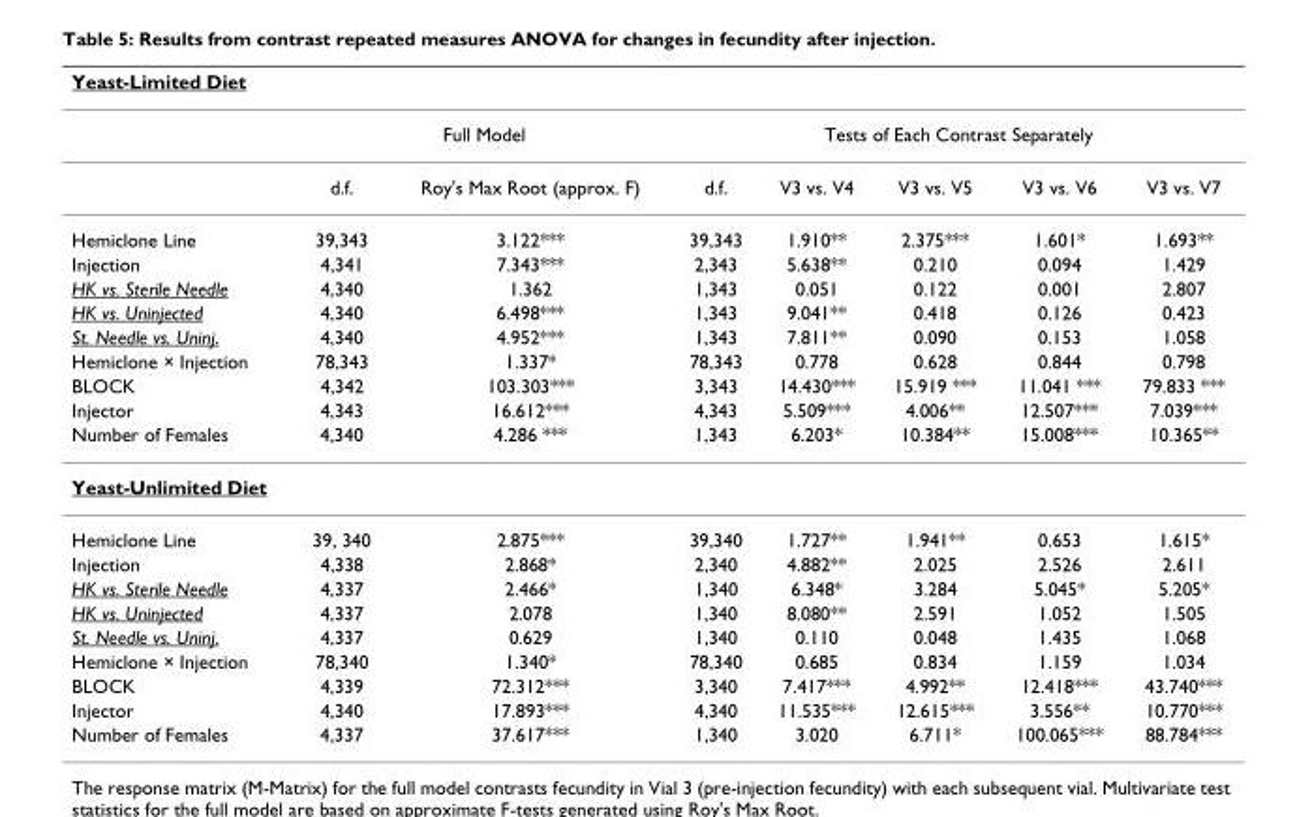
<table><thead><tr><td colspan="8">Yeast-Limited Diet</td></tr><tr><td rowspan="2"></td><td colspan="2">Full Model</td><td colspan="5">Tests of Each Contrast Separately</td></tr><tr><td>d.f.</td><td>Roy&#x27;s Max Root (approx. F)</td><td>d.f.</td><td>V3 vs. V4</td><td>V3 vs. V5</td><td>V3 vs. V6</td><td>V3 vs. V7</td></tr></thead><tbody><tr><td>Hemiclone Line</td><td>39,343</td><td>3.122***</td><td>39,343</td><td>1.910**</td><td>2.375***</td><td>1.601*</td><td>1.693**</td></tr><tr><td>Injection</td><td>4,341</td><td>7.343***</td><td>2,343</td><td>5.638**</td><td>0.210</td><td>0.094</td><td>1.429</td></tr><tr><td>HK vs. Sterile Needle</td><td>4,340</td><td>1.362</td><td>1,343</td><td>0.051</td><td>0.122</td><td>0.001</td><td>2.807</td></tr><tr><td>HK vs. Uninjected</td><td>4,340</td><td>6.498***</td><td>1,343</td><td>9.041**</td><td>0.418</td><td>0.126</td><td>0.423</td></tr><tr><td>St. Needle vs. Uninj.</td><td>4,340</td><td>4.952***</td><td>1,343</td><td>7.811**</td><td>0.090</td><td>0.153</td><td>1.058</td></tr><tr><td>Hemiclone × Injection</td><td>78,343</td><td>1.337*</td><td>78,343</td><td>0.778</td><td>0.628</td><td>0.844</td><td>0.798</td></tr><tr><td>BLOCK</td><td>4,342</td><td>103.303***</td><td>3,343</td><td>14.430***</td><td>15.919 ***</td><td>11.041 ***</td><td>79.833 ***</td></tr><tr><td>Injector</td><td>4,343</td><td>16.612***</td><td>4,343</td><td>5.509***</td><td>4.006**</td><td>12.507***</td><td>7.039***</td></tr><tr><td>Number of Females</td><td>4,340</td><td>4.286 ***</td><td>1,343</td><td>6.203*</td><td>10.384**</td><td>15.008***</td><td>10.365**</td></tr><tr><td colspan="8">Yeast-Unlimited Diet</td></tr><tr><td>Hemiclone Line</td><td>39, 340</td><td>2.875***</td><td>39,340</td><td>1.727**</td><td>1.941**</td><td>0.653</td><td>1.615*</td></tr><tr><td>Injection</td><td>4,338</td><td>2.868*</td><td>2,340</td><td>4.882**</td><td>2.025</td><td>2.526</td><td>2.611</td></tr><tr><td>HK vs. Sterile Needle</td><td>4,337</td><td>2.466*</td><td>1,340</td><td>6.348*</td><td>3.284</td><td>5.045*</td><td>5.205*</td></tr><tr><td>HK vs. Uninjected</td><td>4,337</td><td>2.078</td><td>1,340</td><td>8.080**</td><td>2.591</td><td>1.052</td><td>1.505</td></tr><tr><td>St. Needle vs. Uninj.</td><td>4,337</td><td>0.629</td><td>1,340</td><td>0.110</td><td>0.048</td><td>1.435</td><td>1.068</td></tr><tr><td>Hemiclone × Injection</td><td>78,340</td><td>1.340*</td><td>78,340</td><td>0.685</td><td>0.834</td><td>1.159</td><td>1.034</td></tr><tr><td>BLOCK</td><td>4,339</td><td>72.312***</td><td>3,340</td><td>7.417***</td><td>4.992**</td><td>12.418***</td><td>43.740***</td></tr><tr><td>Injector</td><td>4,340</td><td>17.893***</td><td>4,340</td><td>11.535***</td><td>12.615***</td><td>3.556**</td><td>10.770***</td></tr><tr><td>Number of Females</td><td>4,337</td><td>37.617***</td><td>1,340</td><td>3.020</td><td>6.711*</td><td>100.065***</td><td>88.784***</td></tr></tbody></table>